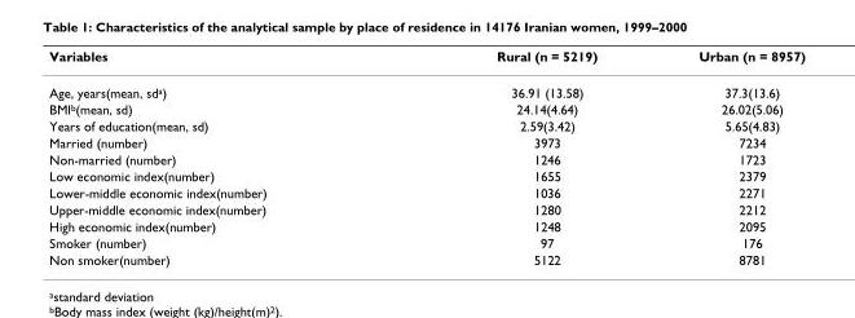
<table><thead><tr><td>Variables</td><td>Rural (n = 5219)</td><td>Urban (n = 8957)</td></tr></thead><tbody><tr><td>Age, years(mean, sd<sup>a</sup>)</td><td>36.91 (13.58)</td><td>37.3(13.6)</td></tr><tr><td>BMI<sup>b</sup>(mean, sd)</td><td>24.14(4.64)</td><td>26.02(5.06)</td></tr><tr><td>Years of education(mean, sd)</td><td>2.59(3.42)</td><td>5.65(4.83)</td></tr><tr><td>Married (number)</td><td>3973</td><td>7234</td></tr><tr><td>Non-married (number)</td><td>1246</td><td>1723</td></tr><tr><td>Low economic index(number)</td><td>1655</td><td>2379</td></tr><tr><td>Lower-middle economic index(number)</td><td>1036</td><td>2271</td></tr><tr><td>Upper-middle economic index(number)</td><td>1280</td><td>2212</td></tr><tr><td>High economic index(number)</td><td>1248</td><td>2095</td></tr><tr><td>Smoker (number)</td><td>97</td><td>176</td></tr><tr><td>Non smoker(number)</td><td>5122</td><td>8781</td></tr></tbody></table>